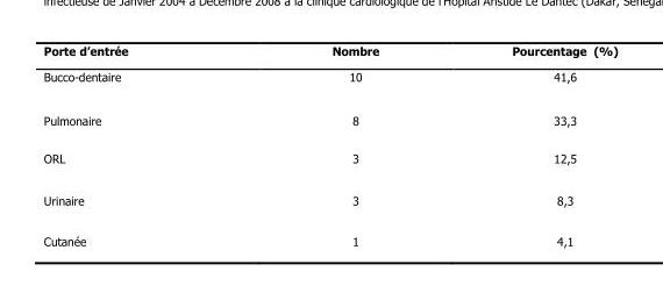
<table><thead><tr><td rowspan="6">Porte d’entrée Bucco-dentaire Pulmonaire ORL Urinaire Cutanée</td><td rowspan="6">Nombre 10 8 3 3 1</td><td rowspan="6">Pourcentage (%) 41,6 33,3 12,5 8,3 4,1</td></tr><tr></tr><tr></tr><tr></tr><tr></tr><tr></tr></thead><tbody></tbody></table>